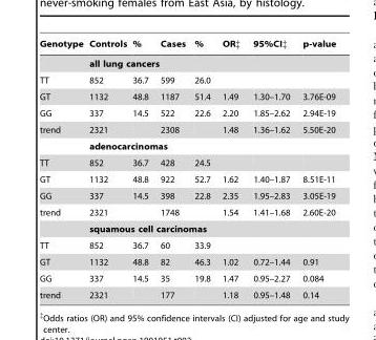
<table><thead><tr><td>Genotype</td><td>Controls</td><td>%</td><td>Cases</td><td>%</td><td>OR‡</td><td>95%CI‡</td><td>p-value</td></tr></thead><tbody><tr><td></td><td colspan="7">all lung cancers</td></tr><tr><td>TT</td><td>852</td><td>36.7</td><td>599</td><td>26.0</td><td></td><td></td><td></td></tr><tr><td>GT</td><td>1132</td><td>48.8</td><td>1187</td><td>51.4</td><td>1.49</td><td>1.30–1.70</td><td>3.76E-09</td></tr><tr><td>GG</td><td>337</td><td>14.5</td><td>522</td><td>22.6</td><td>2.20</td><td>1.85–2.62</td><td>2.94E-19</td></tr><tr><td rowspan="2">trend</td><td>2321</td><td></td><td>2308</td><td></td><td>1.48</td><td>1.36–1.62</td><td>5.50E-20</td></tr><tr><td colspan="7">adenocarcinomas</td></tr><tr><td>TT</td><td>852</td><td>36.7</td><td>428</td><td>24.5</td><td></td><td></td><td></td></tr><tr><td>GT</td><td>1132</td><td>48.8</td><td>922</td><td>52.7</td><td>1.62</td><td>1.40–1.87</td><td>8.51E-11</td></tr><tr><td>GG</td><td>337</td><td>14.5</td><td>398</td><td>22.8</td><td>2.35</td><td>1.95–2.83</td><td>3.05E-19</td></tr><tr><td rowspan="2">trend</td><td>2321</td><td></td><td>1748</td><td></td><td>1.54</td><td>1.41–1.68</td><td>2.60E-20</td></tr><tr><td colspan="7">squamous cell carcinomas</td></tr><tr><td>TT</td><td>852</td><td>36.7</td><td>60</td><td>33.9</td><td></td><td></td><td></td></tr><tr><td>GT</td><td>1132</td><td>48.8</td><td>82</td><td>46.3</td><td>1.02</td><td>0.72–1.44</td><td>0.91</td></tr><tr><td>GG</td><td>337</td><td>14.5</td><td>35</td><td>19.8</td><td>1.47</td><td>0.95–2.27</td><td>0.084</td></tr><tr><td>trend</td><td>2321</td><td></td><td>177</td><td></td><td>1.18</td><td>0.95–1.48</td><td>0.14</td></tr></tbody></table>